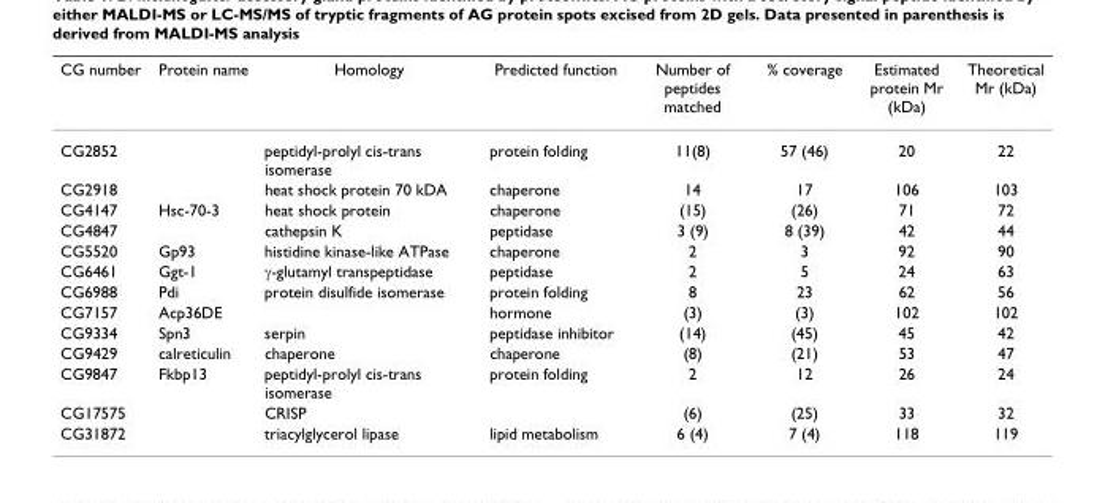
<table><thead><tr><td>CG number</td><td>Protein name</td><td>Homology</td><td>Predicted function</td><td>Number of peptides matched</td><td>% coverage</td><td>Estimated protein Mr (kDa)</td><td>Theoretical Mr (kDa)</td></tr></thead><tbody><tr><td>CG2852</td><td></td><td>peptidyl-prolyl cis-trans isomerase</td><td>protein folding</td><td>11(8)</td><td>57 (46)</td><td>20</td><td>22</td></tr><tr><td>CG2918</td><td></td><td>heat shock protein 70 kDA</td><td>chaperone</td><td>14</td><td>17</td><td>106</td><td>103</td></tr><tr><td>CG4147</td><td>Hsc-70-3</td><td>heat shock protein</td><td>chaperone</td><td>(15)</td><td>(26)</td><td>71</td><td>72</td></tr><tr><td>CG4847</td><td></td><td>cathepsin K</td><td>peptidase</td><td>3 (9)</td><td>8 (39)</td><td>42</td><td>44</td></tr><tr><td>CG5520</td><td>Gp93</td><td>histidine kinase-like ATPase</td><td>chaperone</td><td>2</td><td>3</td><td>92</td><td>90</td></tr><tr><td>CG6461</td><td>Ggt-1</td><td>γ-glutamyl transpeptidase</td><td>peptidase</td><td>2</td><td>5</td><td>24</td><td>63</td></tr><tr><td>CG6988</td><td>Pdi</td><td>protein disulfide isomerase</td><td>protein folding</td><td>8</td><td>23</td><td>62</td><td>56</td></tr><tr><td>CG7157</td><td>Acp36DE</td><td></td><td>hormone</td><td>(3)</td><td>(3)</td><td>102</td><td>102</td></tr><tr><td>CG9334</td><td>Spn3</td><td>serpin</td><td>peptidase inhibitor</td><td>(14)</td><td>(45)</td><td>45</td><td>42</td></tr><tr><td>CG9429</td><td>calreticulin</td><td>chaperone</td><td>chaperone</td><td>(8)</td><td>(21)</td><td>53</td><td>47</td></tr><tr><td>CG9847</td><td>Fkbp13</td><td>peptidyl-prolyl cis-trans isomerase</td><td>protein folding</td><td>2</td><td>12</td><td>26</td><td>24</td></tr><tr><td>CG17575</td><td></td><td>CRISP</td><td></td><td>(6)</td><td>(25)</td><td>33</td><td>32</td></tr><tr><td>CG31872</td><td></td><td>triacylglycerol lipase</td><td>lipid metabolism</td><td>6 (4)</td><td>7 (4)</td><td>118</td><td>119</td></tr></tbody></table>